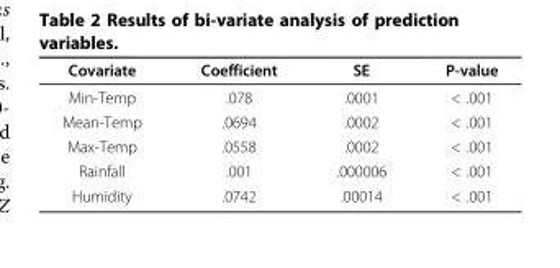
<table><thead><tr><td>Covariate</td><td>Coefficient</td><td>SE</td><td>P-value</td></tr></thead><tbody><tr><td>Min-Temp</td><td>.078</td><td>.0001</td><td>&lt; .001</td></tr><tr><td>Mean-Temp</td><td>.0694</td><td>.0002</td><td>&lt; .001</td></tr><tr><td>Max-Temp</td><td>.0558</td><td>.0002</td><td>&lt; .001</td></tr><tr><td>Rainfall</td><td>.001</td><td>.000006</td><td>&lt; .001</td></tr><tr><td>Humidity</td><td>.0742</td><td>.00014</td><td>&lt; .001</td></tr></tbody></table>